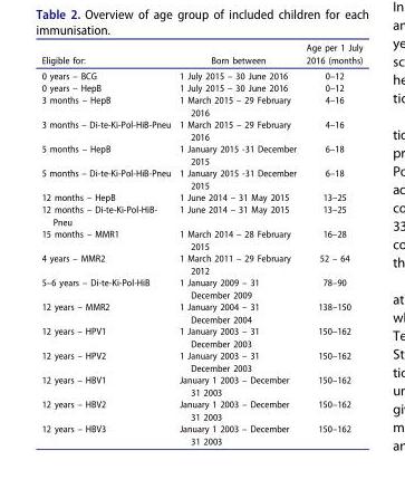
<table><thead><tr><td>Eligible for:</td><td>Born between</td><td>Age per 1 July 2016 (months)</td></tr></thead><tbody><tr><td>0 years – BCG</td><td>1 July 2015 – 30 June 2016</td><td>0–12</td></tr><tr><td>0 years – HepB</td><td>1 July 2015 – 30 June 2016</td><td>0–12</td></tr><tr><td>3 months – HepB</td><td>1 March 2015 – 29 February 2016</td><td>4–16</td></tr><tr><td>3 months – Di-te-Ki-Pol-HiB-Pneu</td><td>1 March 2015 – 29 February 2016</td><td>4–16</td></tr><tr><td>5 months – HepB</td><td>1 January 2015 -31 December 2015</td><td>6–18</td></tr><tr><td>5 months – Di-te-Ki-Pol-HiB-Pneu</td><td>1 January 2015 -31 December 2015</td><td>6–18</td></tr><tr><td>12 months – HepB</td><td>1 June 2014 – 31 May 2015</td><td>13–25</td></tr><tr><td>12 months – Di-te-Ki-Pol-HiB- Pneu</td><td>1 June 2014 – 31 May 2015</td><td>13–25</td></tr><tr><td>15 months – MMR1</td><td>1 March 2014 – 28 February 2015</td><td>16–28</td></tr><tr><td>4 years – MMR2</td><td>1 March 2011 – 29 February 2012</td><td>52 – 64</td></tr><tr><td>5–6 years – Di-te-Ki-Pol-HiB</td><td>1 January 2009 – 31 December 2009</td><td>78–90</td></tr><tr><td>12 years – MMR2</td><td>1 January 2004 – 31 December 2004</td><td>138–150</td></tr><tr><td>12 years – HPV1</td><td>1 January 2003 – 31 December 2003</td><td>150–162</td></tr><tr><td>12 years – HPV2</td><td>1 January 2003 – 31 December 2003</td><td>150–162</td></tr><tr><td>12 years – HBV1</td><td>January 1 2003 – December 31 2003</td><td>150–162</td></tr><tr><td>12 years – HBV2</td><td>January 1 2003 – December 31 2003</td><td>150–162</td></tr><tr><td>12 years – HBV3</td><td>January 1 2003 – December 31 2003</td><td>150–162</td></tr></tbody></table>